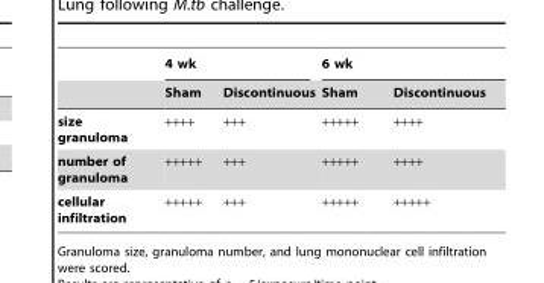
<table><thead><tr><td rowspan="2"></td><td colspan="2">4 wk</td><td colspan="2">6 wk</td></tr><tr><td>Sham</td><td>Discontinuous</td><td>Sham</td><td>Discontinuous</td></tr></thead><tbody><tr><td>size granuloma</td><td>++++</td><td>+++</td><td>+++++</td><td>++++</td></tr><tr><td>number of granuloma</td><td>+++++</td><td>+++</td><td>+++++</td><td>++++</td></tr><tr><td>cellular infiltration</td><td>+++++</td><td>+++</td><td>+++++</td><td>+++++</td></tr></tbody></table>